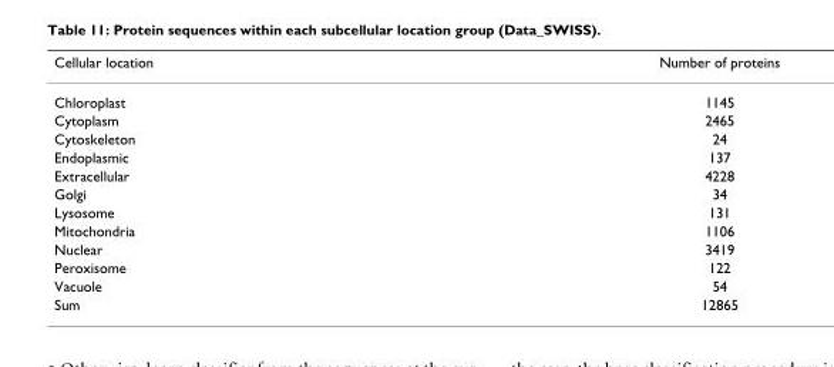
<table><thead><tr><td>Cellular location</td><td>Number of proteins</td></tr></thead><tbody><tr><td>Chloroplast</td><td>1145</td></tr><tr><td>Cytoplasm</td><td>2465</td></tr><tr><td>Cytoskeleton</td><td>24</td></tr><tr><td>Endoplasmic</td><td>137</td></tr><tr><td>Extracellular</td><td>4228</td></tr><tr><td>Golgi</td><td>34</td></tr><tr><td>Lysosome</td><td>131</td></tr><tr><td>Mitochondria</td><td>1106</td></tr><tr><td>Nuclear</td><td>3419</td></tr><tr><td>Peroxisome</td><td>122</td></tr><tr><td>Vacuole</td><td>54</td></tr><tr><td>Sum</td><td>12865</td></tr></tbody></table>